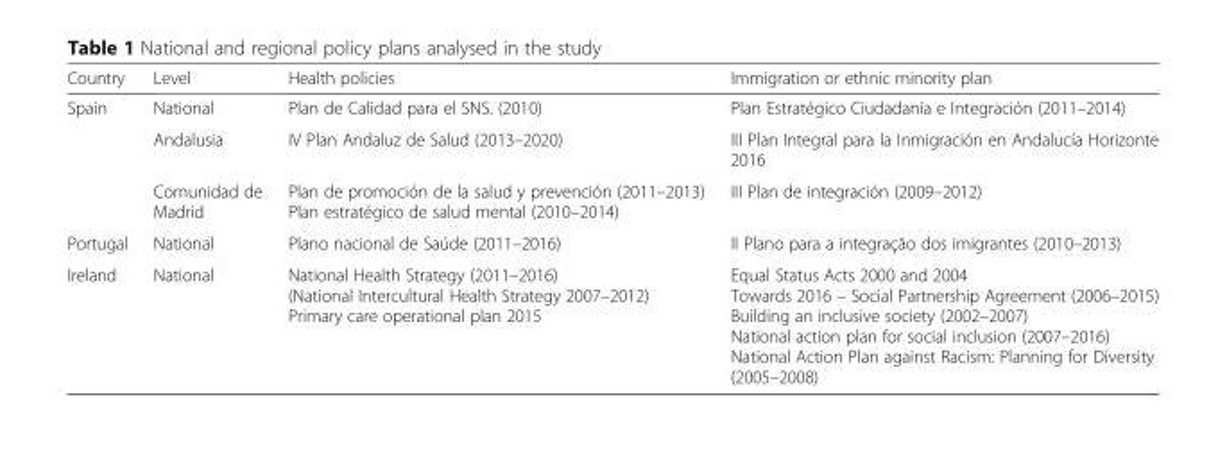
<table><thead><tr><td>Country</td><td>Level</td><td>Health policies</td><td>Immigration or ethnic minority plan</td></tr></thead><tbody><tr><td rowspan="3">Spain</td><td>National</td><td>Plan de Calidad para el SNS. (2010)</td><td>Plan Estratégico Ciudadanía e Integración (2011–2014)</td></tr><tr><td>Andalusia</td><td>IV Plan Andaluz de Salud (2013–2020)</td><td>III Plan Integral para la Inmigración en Andalucía Horizonte 2016</td></tr><tr><td>Comunidad de Madrid</td><td>Plan de promoción de la salud y prevención (2011–2013) Plan estratégico de salud mental (2010–2014)</td><td>III Plan de integración (2009–2012)</td></tr><tr><td>Portugal</td><td>National</td><td>Plano nacional de Saúde (2011–2016)</td><td>II Plano para a integração dos imigrantes (2010–2013)</td></tr><tr><td>Ireland</td><td>National</td><td>National Health Strategy (2011–2016) (National Intercultural Health Strategy 2007–2012) Primary care operational plan 2015</td><td>Equal Status Acts 2000 and 2004 Towards 2016 – Social Partnership Agreement (2006–2015) Building an inclusive society (2002–2007) National action plan for social inclusion (2007–2016) National Action Plan against Racism: Planning for Diversity (2005–2008)</td></tr></tbody></table>